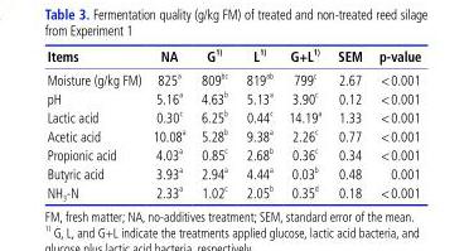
<table><thead><tr><td>Items</td><td>NA</td><td>G 1)</td><td>L 1)</td><td>G+L 1)</td><td>SEM</td><td>p-value</td></tr></thead><tbody><tr><td>Moisture (g/kg FM)</td><td>825 <sup>a</sup></td><td>809 <sup>bc</sup></td><td>819 <sup>ab</sup></td><td>799 <sup>c</sup></td><td>2.67</td><td>&lt;0.001</td></tr><tr><td>pH</td><td>5.16 <sup>a</sup></td><td>4.63 <sup>b</sup></td><td>5.13 <sup>a</sup></td><td>3.90 <sup>c</sup></td><td>0.12</td><td>&lt;0.001</td></tr><tr><td>Lactic acid</td><td>0.30 <sup>c</sup></td><td>6.25 <sup>b</sup></td><td>0.44 <sup>c</sup></td><td>14.19 <sup>a</sup></td><td>1.33</td><td>&lt;0.001</td></tr><tr><td>Acetic acid</td><td>10.08 <sup>a</sup></td><td>5.28 <sup>b</sup></td><td>9.38 <sup>a</sup></td><td>2.26 <sup>c</sup></td><td>0.77</td><td>&lt;0.001</td></tr><tr><td>Propionic acid</td><td>4.03 <sup>a</sup></td><td>0.85 <sup>c</sup></td><td>2.68 <sup>b</sup></td><td>0.36 <sup>c</sup></td><td>0.34</td><td>&lt;0.001</td></tr><tr><td>Butyric acid</td><td>3.93 <sup>a</sup></td><td>2.94 <sup>a</sup></td><td>4.44 <sup>a</sup></td><td>0.03 <sup>b</sup></td><td>0.48</td><td>0.001</td></tr><tr><td>NH<sub>3</sub>-N</td><td>2.33 <sup>a</sup></td><td>1.02 <sup>c</sup></td><td>2.05 <sup>b</sup></td><td>0.35 <sup>d</sup></td><td>0.18</td><td>&lt;0.001</td></tr></tbody></table>